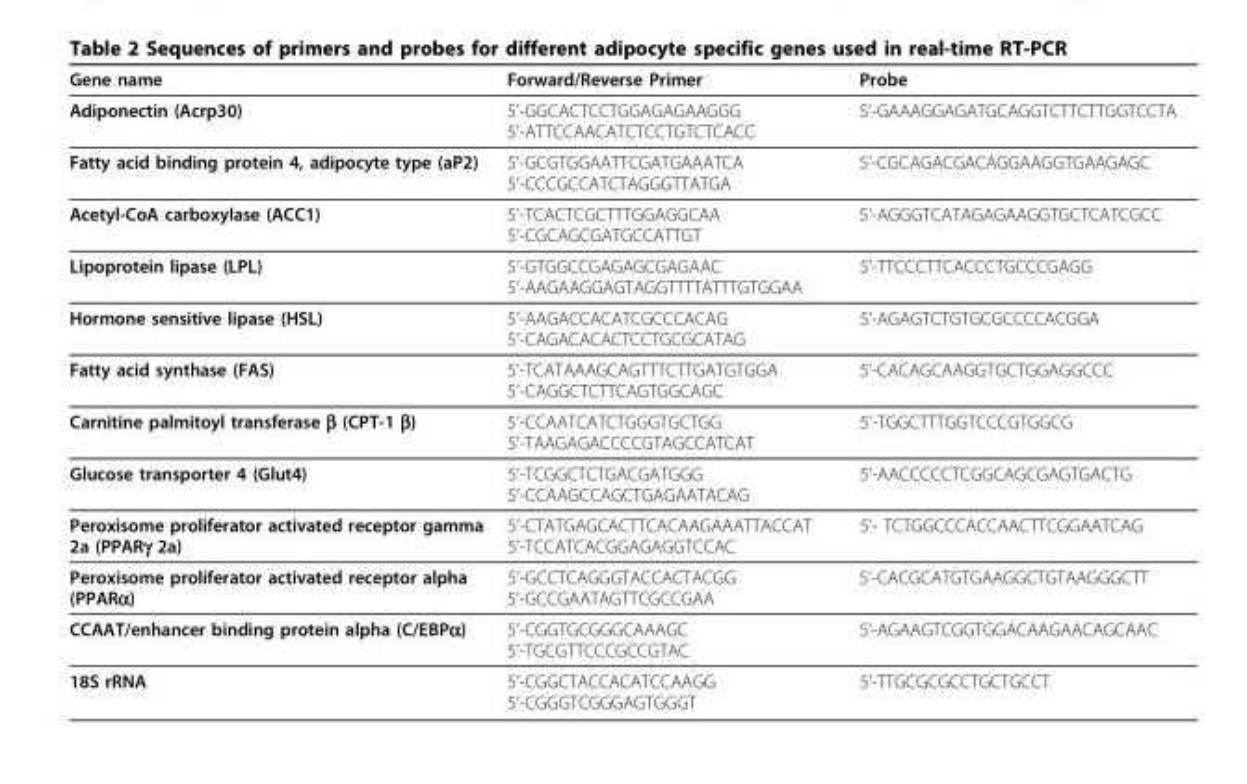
<table><thead><tr><td>Gene name</td><td>Forward/Reverse Primer</td><td>Probe</td></tr></thead><tbody><tr><td>Adiponectin (Acrp30)</td><td>5’-GGCACTCCTGGAGAGAAGGG 5’-ATTCCAACATCTCCTGTCTCACC</td><td>5’-GAAAGGAGATGCAGGTCTTCTTGGTCCTA</td></tr><tr><td>Fatty acid binding protein 4, adipocyte type (aP2)</td><td>5’-GCGTGGAATTCGATGAAATCA 5’-CCCGCCATCTAGGGTTATGA</td><td>5’-CGCAGACGACAGGAAGGTGAAGAGC</td></tr><tr><td>Acetyl-CoA carboxylase (ACC1)</td><td>5’-TCACTCGCTTTGGAGGCAA 5’-CGCAGCGATGCCATTGT</td><td>5’-AGGGTCATAGAGAAGGTGCTCATCGCC</td></tr><tr><td>Lipoprotein lipase (LPL)</td><td>5’-GTGGCCGAGAGCGAGAAC 5’-AAGAAGGAGTAGGTTTTATTTGTGGAA</td><td>5’-TTCCCTTCACCCTGCCCGAGG</td></tr><tr><td>Hormone sensitive lipase (HSL)</td><td>5’-AAGACCACATCGCCCACAG 5’-CAGACACACTCCTGCGCATAG</td><td>5’-AGAGTCTGTGCGCCCCACGGA</td></tr><tr><td>Fatty acid synthase (FAS)</td><td>5’-TCATAAAGCAGTTTCTTGATGTGGA 5’-CAGGCTCTTCAGTGGCAGC</td><td>5’-CACAGCAAGGTGCTGGAGGCCC</td></tr><tr><td>Carnitine palmitoyl transferase β (CPT-1 β)</td><td>5’-CCAATCATCTGGGTGCTGG 5’-TAAGAGACCCCGTAGCCATCAT</td><td>5’-TGGCTTTGGTCCCGTGGCG</td></tr><tr><td>Glucose transporter 4 (Glut4)</td><td>5’-TCGGCTCTGACGATGGG 5’-CCAAGCCAGCTGAGAATACAG</td><td>5’-AACCCCCTCGGCAGCGAGTGACTG</td></tr><tr><td>Peroxisome proliferator activated receptor gamma 2a (PPARγ 2a)</td><td>5’-CTATGAGCACTTCACAAGAAATTACCAT 5’-TCCATCACGGAGAGGTCCAC</td><td>5’- TCTGGCCCACCAACTTCGGAATCAG</td></tr><tr><td>Peroxisome proliferator activated receptor alpha (PPARα)</td><td>5’-GCCTCAGGGTACCACTACGG 5’-GCCGAATAGTTCGCCGAA</td><td>5’-CACGCATGTGAAGGCTGTAAGGGCTT</td></tr><tr><td>CCAAT/enhancer binding protein alpha (C/EBPα)</td><td>5’-CGGTGCGGGCAAAGC 5’-TGCGTTCCCGCCGTAC</td><td>5’-AGAAGTCGGTGGACAAGAACAGCAAC</td></tr><tr><td>18S rRNA</td><td>5’-CGGCTACCACATCCAAGG 5’-CGGGTCGGGAGTGGGT</td><td>5’-TTGCGCGCCTGCTGCCT</td></tr></tbody></table>